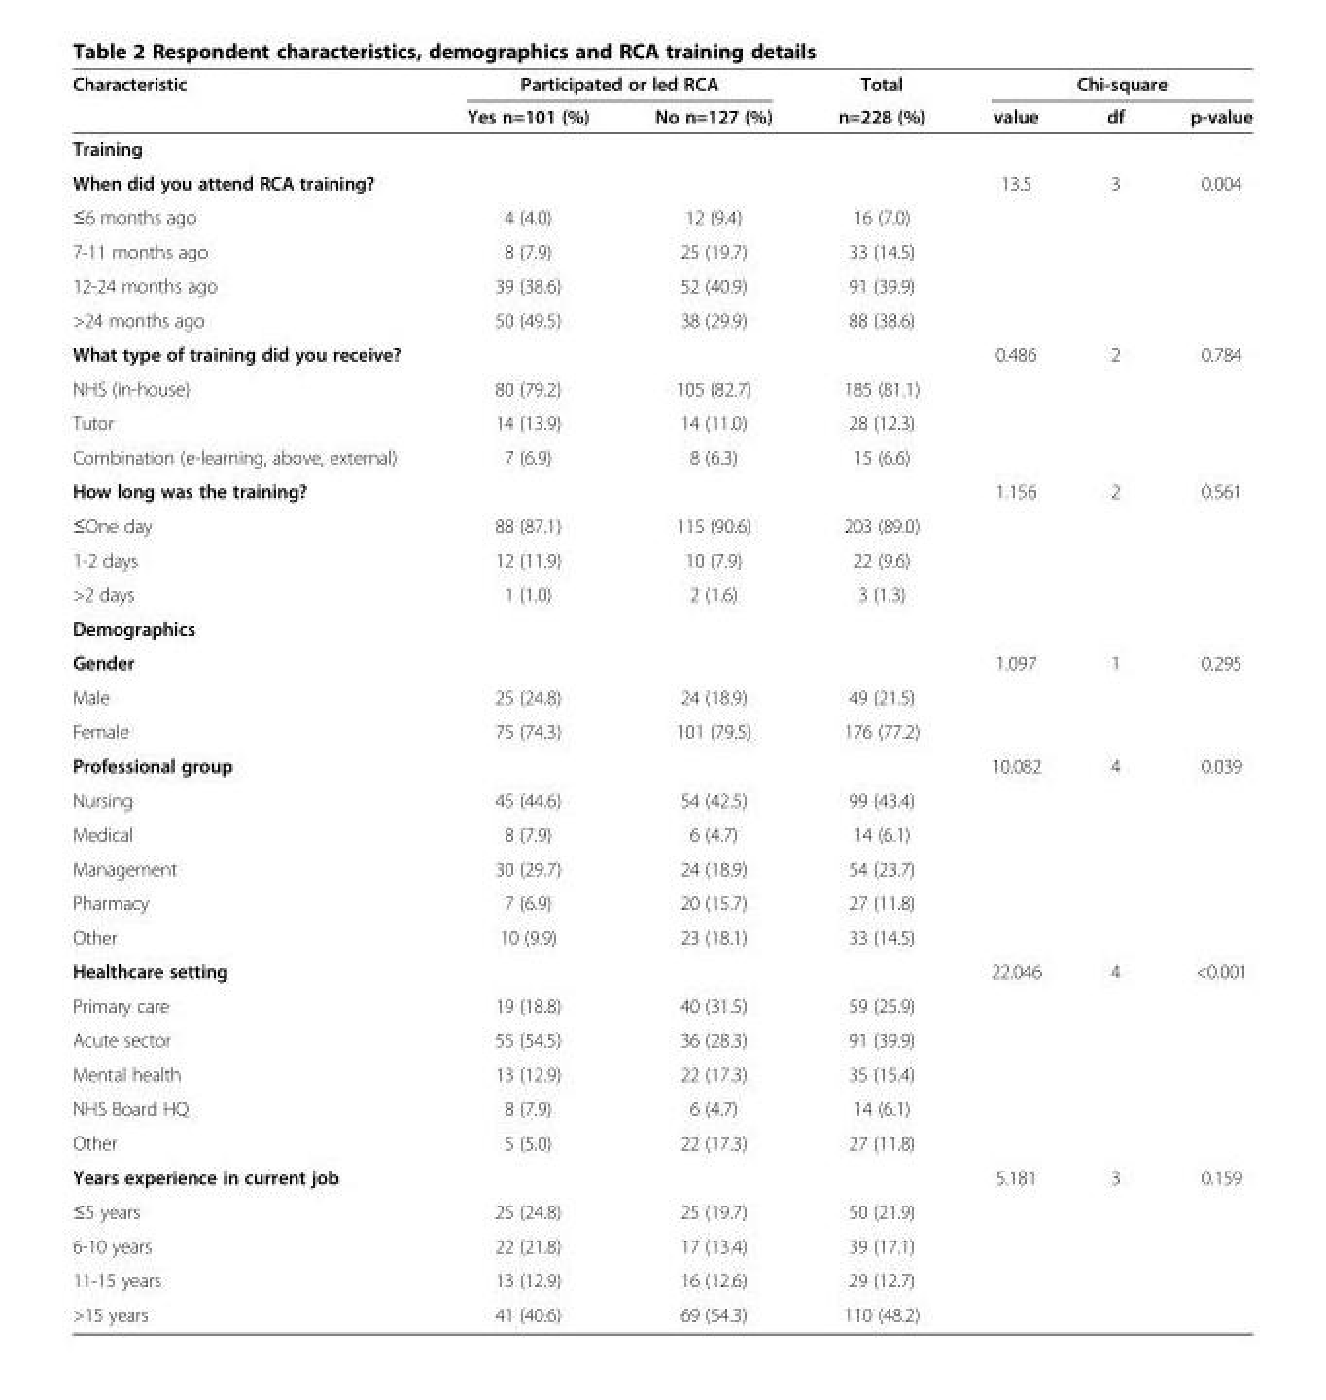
<table><thead><tr><td rowspan="2">Characteristic</td><td colspan="2">Participated or led RCA</td><td rowspan="2">Total n=228 (%)</td><td colspan="3">Chi-square</td></tr><tr><td>Yes n=101 (%)</td><td>No n=127 (%)</td><td>value</td><td>df</td><td>p-value</td></tr></thead><tbody><tr><td colspan="7">Training</td></tr><tr><td>When did you attend RCA training?</td><td></td><td></td><td></td><td>13.5</td><td>3</td><td>0.004</td></tr><tr><td>≤6 months ago</td><td>4 (4.0)</td><td>12 (9.4)</td><td>16 (7.0)</td><td></td><td></td><td></td></tr><tr><td>7-11 months ago</td><td>8 (7.9)</td><td>25 (19.7)</td><td>33 (14.5)</td><td></td><td></td><td></td></tr><tr><td>12-24 months ago</td><td>39 (38.6)</td><td>52 (40.9)</td><td>91 (39.9)</td><td></td><td></td><td></td></tr><tr><td>&gt;24 months ago</td><td>50 (49.5)</td><td>38 (29.9)</td><td>88 (38.6)</td><td></td><td></td><td></td></tr><tr><td>What type of training did you receive?</td><td></td><td></td><td></td><td>0.486</td><td>2</td><td>0.784</td></tr><tr><td>NHS (in-house)</td><td>80 (79.2)</td><td>105 (82.7)</td><td>185 (81.1)</td><td></td><td></td><td></td></tr><tr><td>Tutor</td><td>14 (13.9)</td><td>14 (11.0)</td><td>28 (12.3)</td><td></td><td></td><td></td></tr><tr><td>Combination (e-learning, above, external)</td><td>7 (6.9)</td><td>8 (6.3)</td><td>15 (6.6)</td><td></td><td></td><td></td></tr><tr><td>How long was the training?</td><td></td><td></td><td></td><td>1.156</td><td>2</td><td>0.561</td></tr><tr><td>≤One day</td><td>88 (87.1)</td><td>115 (90.6)</td><td>203 (89.0)</td><td></td><td></td><td></td></tr><tr><td>1-2 days</td><td>12 (11.9)</td><td>10 (7.9)</td><td>22 (9.6)</td><td></td><td></td><td></td></tr><tr><td>&gt;2 days</td><td>1 (1.0)</td><td>2 (1.6)</td><td>3 (1.3)</td><td></td><td></td><td></td></tr><tr><td colspan="7">Demographics</td></tr><tr><td>Gender</td><td></td><td></td><td></td><td>1.097</td><td>1</td><td>0.295</td></tr><tr><td>Male</td><td>25 (24.8)</td><td>24 (18.9)</td><td>49 (21.5)</td><td></td><td></td><td></td></tr><tr><td>Female</td><td>75 (74.3)</td><td>101 (79.5)</td><td>176 (77.2)</td><td></td><td></td><td></td></tr><tr><td>Professional group</td><td></td><td></td><td></td><td>10.082</td><td>4</td><td>0.039</td></tr><tr><td>Nursing</td><td>45 (44.6)</td><td>54 (42.5)</td><td>99 (43.4)</td><td></td><td></td><td></td></tr><tr><td>Medical</td><td>8 (7.9)</td><td>6 (4.7)</td><td>14 (6.1)</td><td></td><td></td><td></td></tr><tr><td>Management</td><td>30 (29.7)</td><td>24 (18.9)</td><td>54 (23.7)</td><td></td><td></td><td></td></tr><tr><td>Pharmacy</td><td>7 (6.9)</td><td>20 (15.7)</td><td>27 (11.8)</td><td></td><td></td><td></td></tr><tr><td>Other</td><td>10 (9.9)</td><td>23 (18.1)</td><td>33 (14.5)</td><td></td><td></td><td></td></tr><tr><td>Healthcare setting</td><td></td><td></td><td></td><td>22.046</td><td>4</td><td>&lt;0.001</td></tr><tr><td>Primary care</td><td>19 (18.8)</td><td>40 (31.5)</td><td>59 (25.9)</td><td></td><td></td><td></td></tr><tr><td>Acute sector</td><td>55 (54.5)</td><td>36 (28.3)</td><td>91 (39.9)</td><td></td><td></td><td></td></tr><tr><td>Mental health</td><td>13 (12.9)</td><td>22 (17.3)</td><td>35 (15.4)</td><td></td><td></td><td></td></tr><tr><td>NHS Board HQ</td><td>8 (7.9)</td><td>6 (4.7)</td><td>14 (6.1)</td><td></td><td></td><td></td></tr><tr><td>Other</td><td>5 (5.0)</td><td>22 (17.3)</td><td>27 (11.8)</td><td></td><td></td><td></td></tr><tr><td>Years experience in current job</td><td></td><td></td><td></td><td>5.181</td><td>3</td><td>0.159</td></tr><tr><td>≤5 years</td><td>25 (24.8)</td><td>25 (19.7)</td><td>50 (21.9)</td><td></td><td></td><td></td></tr><tr><td>6-10 years</td><td>22 (21.8)</td><td>17 (13.4)</td><td>39 (17.1)</td><td></td><td></td><td></td></tr><tr><td>11-15 years</td><td>13 (12.9)</td><td>16 (12.6)</td><td>29 (12.7)</td><td></td><td></td><td></td></tr><tr><td>&gt;15 years</td><td>41 (40.6)</td><td>69 (54.3)</td><td>110 (48.2)</td><td></td><td></td><td></td></tr></tbody></table>